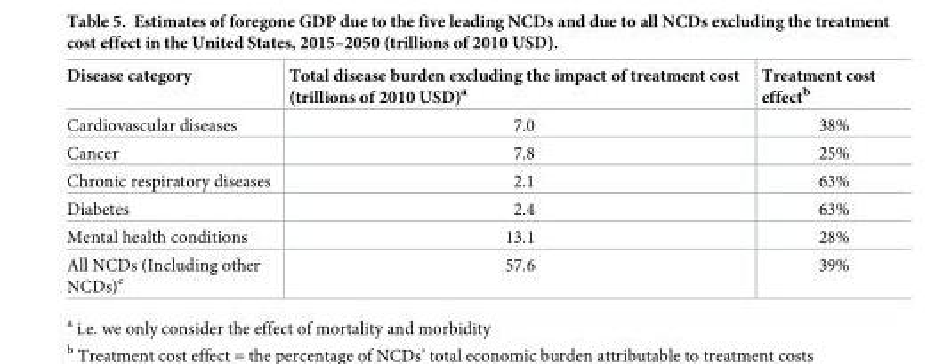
<table><thead><tr><td>Disease category</td><td>Total disease burden excluding the impact of treatment cost (trillions of 2010 USD)<sup>a</sup></td><td>Treatment cost effect<sup>b</sup></td></tr></thead><tbody><tr><td>Cardiovascular diseases</td><td>7.0</td><td>38%</td></tr><tr><td>Cancer</td><td>7.8</td><td>25%</td></tr><tr><td>Chronic respiratory diseases</td><td>2.1</td><td>63%</td></tr><tr><td>Diabetes</td><td>2.4</td><td>63%</td></tr><tr><td>Mental health conditions</td><td>13.1</td><td>28%</td></tr><tr><td>All NCDs (Including other NCDs)<sup>c</sup></td><td>57.6</td><td>39%</td></tr></tbody></table>